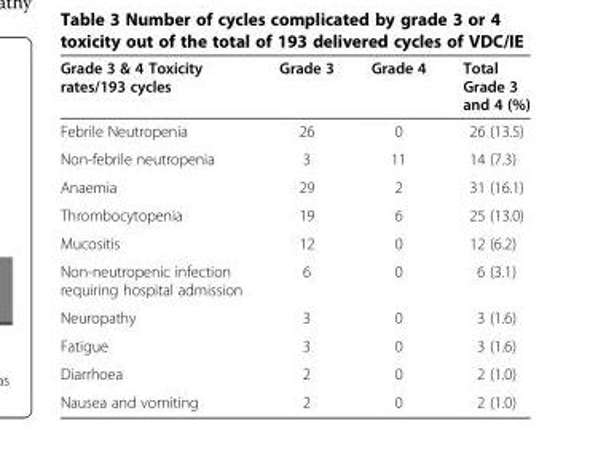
<table><thead><tr><td>Grade 3 &amp; 4 Toxicity rates/193 cycles</td><td>Grade 3</td><td>Grade 4</td><td>Total Grade 3 and 4 (%)</td></tr></thead><tbody><tr><td>Febrile Neutropenia</td><td>26</td><td>0</td><td>26 (13.5)</td></tr><tr><td>Non-febrile neutropenia</td><td>3</td><td>11</td><td>14 (7.3)</td></tr><tr><td>Anaemia</td><td>29</td><td>2</td><td>31 (16.1)</td></tr><tr><td>Thrombocytopenia</td><td>19</td><td>6</td><td>25 (13.0)</td></tr><tr><td>Mucositis</td><td>12</td><td>0</td><td>12 (6.2)</td></tr><tr><td>Non-neutropenic infection requiring hospital admission</td><td>6</td><td>0</td><td>6 (3.1)</td></tr><tr><td>Neuropathy</td><td>3</td><td>0</td><td>3 (1.6)</td></tr><tr><td>Fatigue</td><td>3</td><td>0</td><td>3 (1.6)</td></tr><tr><td>Diarrhoea</td><td>2</td><td>0</td><td>2 (1.0)</td></tr><tr><td>Nausea and vomiting</td><td>2</td><td>0</td><td>2 (1.0)</td></tr></tbody></table>